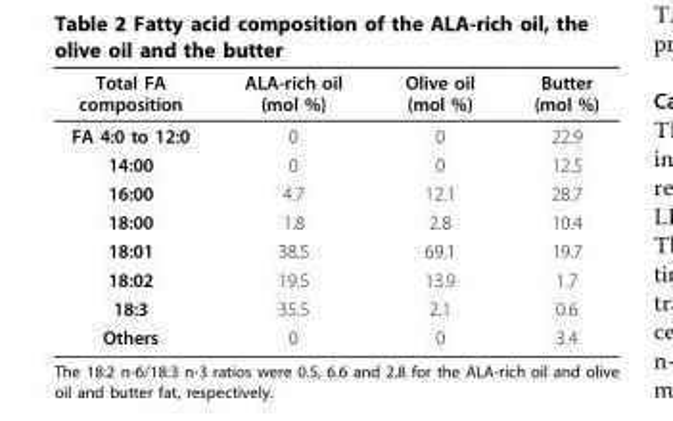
<table><thead><tr><td>Total FA composition</td><td>ALA-rich oil (mol %)</td><td>Olive oil (mol %)</td><td>Butter (mol %)</td></tr></thead><tbody><tr><td>FA 4:0 to 12:0</td><td>0</td><td>0</td><td>22.9</td></tr><tr><td>14:00</td><td>0</td><td>0</td><td>12.5</td></tr><tr><td>16:00</td><td>4.7</td><td>12.1</td><td>28.7</td></tr><tr><td>18:00</td><td>1.8</td><td>2.8</td><td>10.4</td></tr><tr><td>18:01</td><td>38.5</td><td>69.1</td><td>19.7</td></tr><tr><td>18:02</td><td>19.5</td><td>13.9</td><td>1.7</td></tr><tr><td>18:3</td><td>35.5</td><td>2.1</td><td>0.6</td></tr><tr><td>Others</td><td>0</td><td>0</td><td>3.4</td></tr></tbody></table>